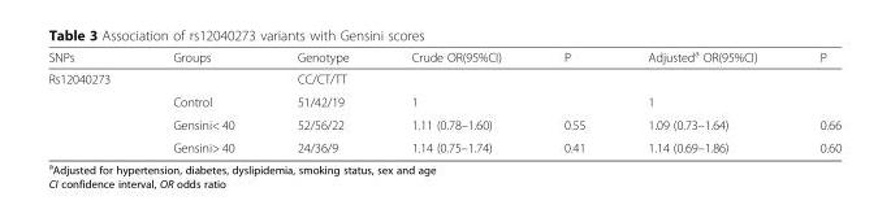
<table><thead><tr><td>SNPs</td><td>Groups</td><td>Genotype</td><td>Crude OR(95%CI)</td><td>P</td><td>Adjusted<sup>a</sup> OR(95%CI)</td><td>P</td></tr></thead><tbody><tr><td rowspan="4">Rs12040273</td><td></td><td>CC/CT/TT</td><td></td><td></td><td></td><td></td></tr><tr><td>Control</td><td>51/42/19</td><td>1</td><td></td><td>1</td><td></td></tr><tr><td>Gensini&lt; 40</td><td>52/56/22</td><td>1.11 (0.78–1.60)</td><td>0.55</td><td>1.09 (0.73–1.64)</td><td>0.66</td></tr><tr><td>Gensini&gt; 40</td><td>24/36/9</td><td>1.14 (0.75–1.74)</td><td>0.41</td><td>1.14 (0.69–1.86)</td><td>0.60</td></tr></tbody></table>